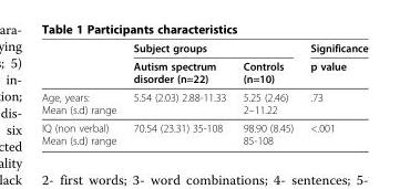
<table><thead><tr><td rowspan="2"></td><td colspan="2">Subject groups</td><td rowspan="2">Significance p value</td></tr><tr><td>Autism spectrum disorder (n=22)</td><td>Controls (n=10)</td></tr></thead><tbody><tr><td>Age, years:</td><td rowspan="2">5.54 (2.03) 2.88-11.33</td><td rowspan="2">5.25 (2.46) 2–11.22</td><td rowspan="2">.73</td></tr><tr><td>Mean (s.d) range</td></tr><tr><td>IQ (non verbal)</td><td rowspan="2">70.54 (23.31) 35-108</td><td rowspan="2">98.90 (8.45) 85-108</td><td rowspan="2">&lt;.001</td></tr><tr><td>Mean (s.d) range</td></tr></tbody></table>